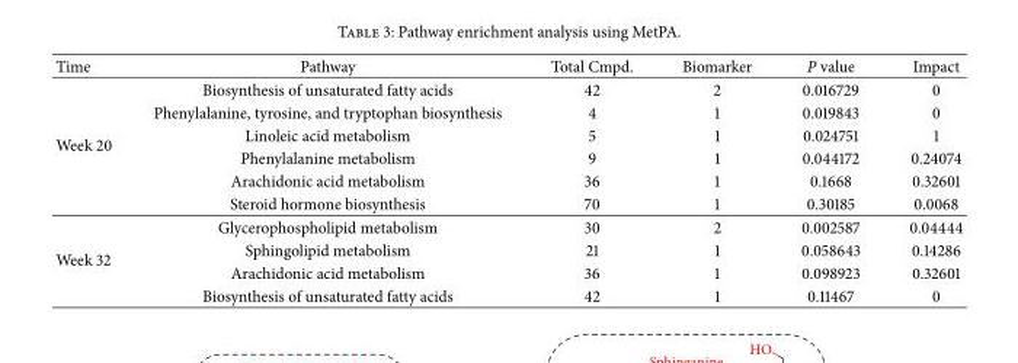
<table><thead><tr><td>Time</td><td>Pathway</td><td>Total Cmpd.</td><td>Biomarker</td><td>P value</td><td>Impact</td></tr></thead><tbody><tr><td rowspan="6">Week 20</td><td>Biosynthesis of unsaturated fatty acids</td><td>42</td><td>2</td><td>0.016729</td><td>0</td></tr><tr><td>Phenylalanine, tyrosine, and tryptophan biosynthesis</td><td>4</td><td>1</td><td>0.019843</td><td>0</td></tr><tr><td>Linoleic acid metabolism</td><td>5</td><td>1</td><td>0.024751</td><td>1</td></tr><tr><td>Phenylalanine metabolism</td><td>9</td><td>1</td><td>0.044172</td><td>0.24074</td></tr><tr><td>Arachidonic acid metabolism</td><td>36</td><td>1</td><td>0.1668</td><td>0.32601</td></tr><tr><td>Steroid hormone biosynthesis</td><td>70</td><td>1</td><td>0.30185</td><td>0.0068</td></tr><tr><td rowspan="4">Week 32</td><td>Glycerophospholipid metabolism</td><td>30</td><td>2</td><td>0.002587</td><td>0.04444</td></tr><tr><td>Sphingolipid metabolism</td><td>21</td><td>1</td><td>0.058643</td><td>0.14286</td></tr><tr><td>Arachidonic acid metabolism</td><td>36</td><td>1</td><td>0.098923</td><td>0.32601</td></tr><tr><td>Biosynthesis of unsaturated fatty acids</td><td>42</td><td>1</td><td>0.11467</td><td>0</td></tr></tbody></table>